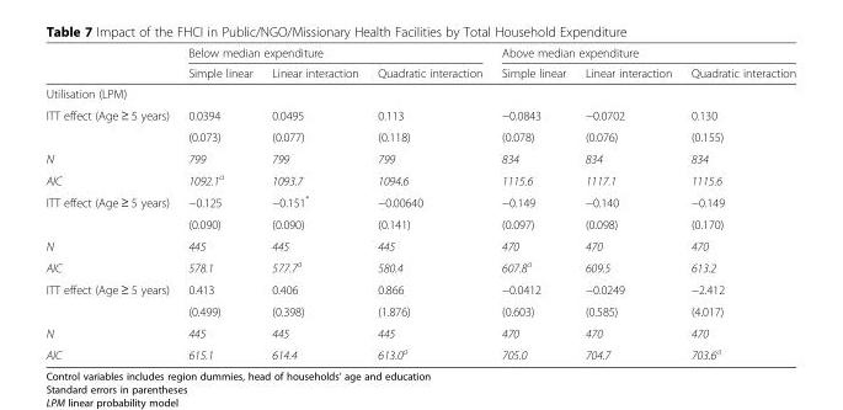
<table><thead><tr><td rowspan="2"></td><td colspan="3">Below median expenditure</td><td colspan="3">Above median expenditure</td></tr><tr><td>Simple linear</td><td>Linear interaction</td><td>Quadratic interaction</td><td>Simple linear</td><td>Linear interaction</td><td>Quadratic interaction</td></tr></thead><tbody><tr><td colspan="7">Utilisation (LPM)</td></tr><tr><td rowspan="2">ITT effect (Age ≥ 5 years)</td><td>0.0394</td><td>0.0495</td><td>0.113</td><td>−0.0843</td><td>−0.0702</td><td>0.130</td></tr><tr><td>(0.073)</td><td>(0.077)</td><td>(0.118)</td><td>(0.078)</td><td>(0.076)</td><td>(0.155)</td></tr><tr><td>N</td><td>799</td><td>799</td><td>799</td><td>834</td><td>834</td><td>834</td></tr><tr><td>AIC</td><td>1092.1<sup>a</sup></td><td>1093.7</td><td>1094.6</td><td>1115.6</td><td>1117.1</td><td>1115.6</td></tr><tr><td rowspan="2">ITT effect (Age ≥ 5 years)</td><td>−0.125</td><td>−0.151*</td><td>−0.00640</td><td>−0.149</td><td>−0.140</td><td>−0.149</td></tr><tr><td>(0.090)</td><td>(0.090)</td><td>(0.141)</td><td>(0.097)</td><td>(0.098)</td><td>(0.170)</td></tr><tr><td>N</td><td>445</td><td>445</td><td>445</td><td>470</td><td>470</td><td>470</td></tr><tr><td>AIC</td><td>578.1</td><td>577.7<sup>a</sup></td><td>580.4</td><td>607.8<sup>a</sup></td><td>609.5</td><td>613.2</td></tr><tr><td rowspan="2">ITT effect (Age ≥ 5 years)</td><td>0.413</td><td>0.406</td><td>0.866</td><td>−0.0412</td><td>−0.0249</td><td>−2.412</td></tr><tr><td>(0.499)</td><td>(0.398)</td><td>(1.876)</td><td>(0.603)</td><td>(0.585)</td><td>(4.017)</td></tr><tr><td>N</td><td>445</td><td>445</td><td>445</td><td>470</td><td>470</td><td>470</td></tr><tr><td>AIC</td><td>615.1</td><td>614.4</td><td>613.0<sup>a</sup></td><td>705.0</td><td>704.7</td><td>703.6<sup>a</sup></td></tr></tbody></table>